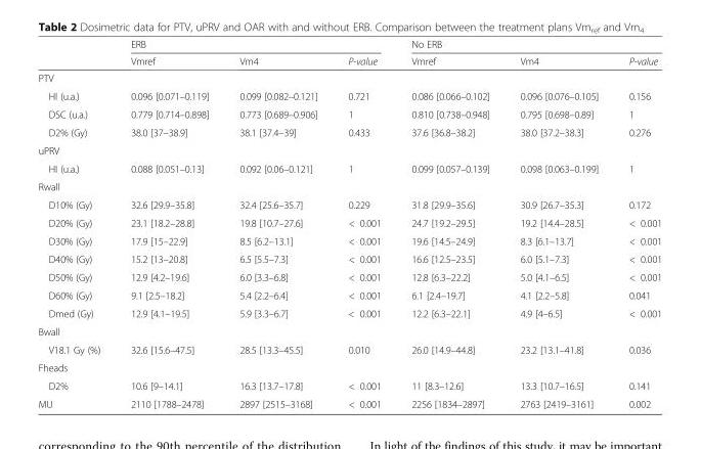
<table><thead><tr><td rowspan="2"></td><td colspan="3">ERB</td><td colspan="3">No ERB</td></tr><tr><td>Vmref</td><td>Vm4</td><td>P-value</td><td>Vmref</td><td>Vm4</td><td>P-value</td></tr></thead><tbody><tr><td colspan="7">PTV</td></tr><tr><td>HI (u.a.)</td><td>0.096 [0.071–0.119]</td><td>0.099 [0.082–0.121]</td><td>0.721</td><td>0.086 [0.066–0.102]</td><td>0.096 [0.076–0.105]</td><td>0.156</td></tr><tr><td>DSC (u.a.)</td><td>0.779 [0.714–0.898]</td><td>0.773 [0.689–0.906]</td><td>1</td><td>0.810 [0.738–0.948]</td><td>0.795 [0.698–0.89]</td><td>1</td></tr><tr><td>D2% (Gy)</td><td>38.0 [37–38.9]</td><td>38.1 [37.4–39]</td><td>0.433</td><td>37.6 [36.8–38.2]</td><td>38.0 [37.2–38.3]</td><td>0.276</td></tr><tr><td colspan="7">uPRV</td></tr><tr><td>HI (u.a.)</td><td>0.088 [0.051–0.13]</td><td>0.092 [0.06–0.121]</td><td>1</td><td>0.099 [0.057–0.139]</td><td>0.098 [0.063–0.199]</td><td>1</td></tr><tr><td colspan="7">Rwall</td></tr><tr><td>D10% (Gy)</td><td>32.6 [29.9–35.8]</td><td>32.4 [25.6–35.7]</td><td>0.229</td><td>31.8 [29.9–35.6]</td><td>30.9 [26.7–35.3]</td><td>0.172</td></tr><tr><td>D20% (Gy)</td><td>23.1 [18.2–28.8]</td><td>19.8 [10.7–27.6]</td><td>&lt; 0.001</td><td>24.7 [19.2–29.5]</td><td>19.2 [14.4–28.5]</td><td>&lt; 0.001</td></tr><tr><td>D30% (Gy)</td><td>17.9 [15–22.9]</td><td>8.5 [6.2–13.1]</td><td>&lt; 0.001</td><td>19.6 [14.5–24.9]</td><td>8.3 [6.1–13.7]</td><td>&lt; 0.001</td></tr><tr><td>D40% (Gy)</td><td>15.2 [13–20.8]</td><td>6.5 [5.5–7.3]</td><td>&lt; 0.001</td><td>16.6 [12.5–23.5]</td><td>6.0 [5.1–7.3]</td><td>&lt; 0.001</td></tr><tr><td>D50% (Gy)</td><td>12.9 [4.2–19.6]</td><td>6.0 [3.3–6.8]</td><td>&lt; 0.001</td><td>12.8 [6.3–22.2]</td><td>5.0 [4.1–6.5]</td><td>&lt; 0.001</td></tr><tr><td>D60% (Gy)</td><td>9.1 [2.5–18.2]</td><td>5.4 [2.2–6.4]</td><td>&lt; 0.001</td><td>6.1 [2.4–19.7]</td><td>4.1 [2.2–5.8]</td><td>0.041</td></tr><tr><td>Dmed (Gy)</td><td>12.9 [4.1–19.5]</td><td>5.9 [3.3–6.7]</td><td>&lt; 0.001</td><td>12.2 [6.3–22.1]</td><td>4.9 [4–6.5]</td><td>&lt; 0.001</td></tr><tr><td colspan="7">Bwall</td></tr><tr><td>V18.1 Gy (%)</td><td>32.6 [15.6–47.5]</td><td>28.5 [13.3–45.5]</td><td>0.010</td><td>26.0 [14.9–44.8]</td><td>23.2 [13.1–41.8]</td><td>0.036</td></tr><tr><td colspan="7">Fheads</td></tr><tr><td>D2%</td><td>10.6 [9–14.1]</td><td>16.3 [13.7–17.8]</td><td>&lt; 0.001</td><td>11 [8.3–12.6]</td><td>13.3 [10.7–16.5]</td><td>0.141</td></tr><tr><td>MU</td><td>2110 [1788–2478]</td><td>2897 [2515–3168]</td><td>&lt; 0.001</td><td>2256 [1834–2897]</td><td>2763 [2419–3161]</td><td>0.002</td></tr></tbody></table>